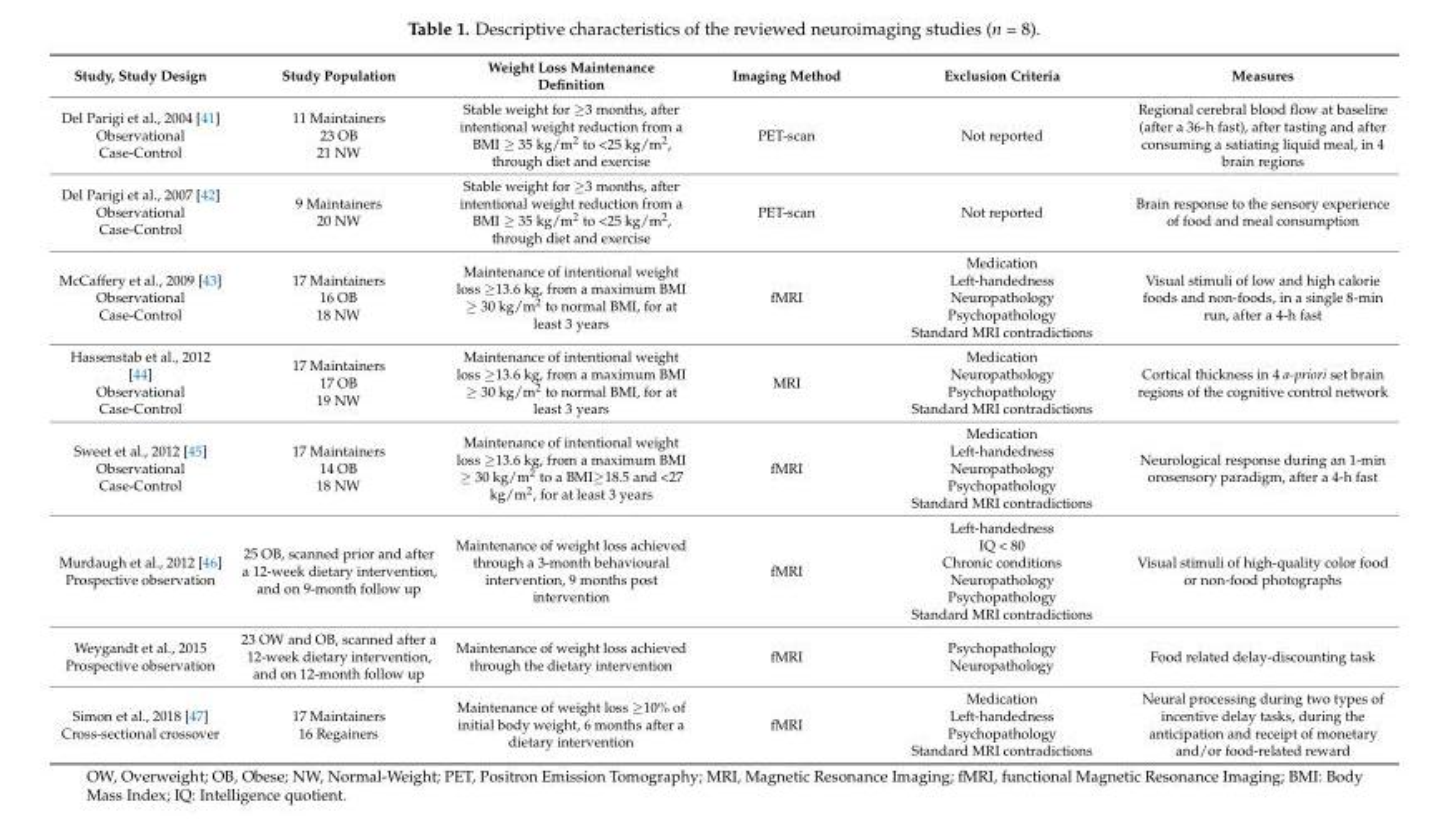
<table><thead><tr><td>Study, Study Design</td><td>Study Population</td><td>Weight Loss Maintenance Definition</td><td>Imaging Method</td><td>Exclusion Criteria</td><td>Measures</td></tr></thead><tbody><tr><td>Del Parigi et al., 2004 [41] Observational Case-Control</td><td>11 Maintainers 23 OB 21 NW</td><td>Stable weight for ≥3 months, after intentional weight reduction from a BMI ≥ 35 kg/m<sup>2</sup> to &lt;25 kg/m<sup>2</sup>, through diet and exercise</td><td>PET-scan</td><td>Not reported</td><td>Regional cerebral blood flow at baseline (after a 36-h fast), after tasting and after consuming a satiating liquid meal, in 4 brain regions</td></tr><tr><td>Del Parigi et al., 2007 [42] Observational Case-Control</td><td>9 Maintainers 20 NW</td><td>Stable weight for ≥3 months, after intentional weight reduction from a BMI ≥ 35 kg/m<sup>2</sup> to &lt;25 kg/m<sup>2</sup>, through diet and exercise</td><td>PET-scan</td><td>Not reported</td><td>Brain response to the sensory experience of food and meal consumption</td></tr><tr><td>McCaffery et al., 2009 [43] Observational Case-Control</td><td>17 Maintainers 16 OB 18 NW</td><td>Maintenance of intentional weight loss ≥13.6 kg, from a maximum BMI ≥ 30 kg/m<sup>2</sup> to normal BMI, for at least 3 years</td><td>fMRI</td><td>Medication Left-handedness Neuropathology Psychopathology Standard MRI contradictions</td><td>Visual stimuli of low and high calorie foods and non-foods, in a single 8-min run, after a 4-h fast</td></tr><tr><td>Hassenstab et al., 2012 [44] Observational Case-Control</td><td>17 Maintainers 17 OB 19 NW</td><td>Maintenance of intentional weight loss ≥13.6 kg, from a maximum BMI ≥ 30 kg/m<sup>2</sup> to normal BMI, for at least 3 years</td><td>MRI</td><td>Medication Neuropathology Psychopathology Standard MRI contradictions</td><td>Cortical thickness in 4 a-priori set brain regions of the cognitive control network</td></tr><tr><td>Sweet et al., 2012 [45] Observational Case-Control</td><td>17 Maintainers 14 OB 18 NW</td><td>Maintenance of intentional weight loss ≥13.6 kg, from a maximum BMI ≥ 30 kg/m<sup>2</sup> to a BMI≥18.5 and &lt;27 kg/m<sup>2</sup>, for at least 3 years</td><td>fMRI</td><td>Medication Left-handedness Neuropathology Psychopathology Standard MRI contradictions</td><td>Neurological response during an 1-min orosensory paradigm, after a 4-h fast</td></tr><tr><td>Murdaugh et al., 2012 [46] Prospective observation</td><td>25 OB, scanned prior and after a 12-week dietary intervention, and on 9-month follow up</td><td>Maintenance of weight loss achieved through a 3-month behavioural intervention, 9 months post intervention</td><td>fMRI</td><td>Left-handedness IQ &lt; 80 Chronic conditions Neuropathology Psychopathology Standard MRI contradictions</td><td>Visual stimuli of high-quality color food or non-food photographs</td></tr><tr><td>Weygandt et al., 2015 Prospective observation</td><td>23 OW and OB, scanned after a 12-week dietary intervention, and on 12-month follow up</td><td>Maintenance of weight loss achieved through the dietary intervention</td><td>fMRI</td><td>Psychopathology Neuropathology</td><td>Food related delay-discounting task</td></tr><tr><td>Simon et al., 2018 [47] Cross-sectional crossover</td><td>17 Maintainers 16 Regainers</td><td>Maintenance of weight loss ≥10% of initial body weight, 6 months after a dietary intervention</td><td>fMRI</td><td>Medication Left-handedness Psychopathology Standard MRI contradictions</td><td>Neural processing during two types of incentive delay tasks, during the anticipation and receipt of monetary and/or food-related reward</td></tr></tbody></table>